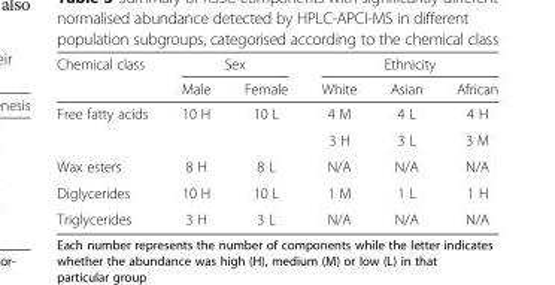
<table><thead><tr><td rowspan="2">Chemical class</td><td colspan="2">Sex</td><td colspan="3">Ethnicity</td></tr><tr><td>Male</td><td>Female</td><td>White</td><td>Asian</td><td>African</td></tr></thead><tbody><tr><td rowspan="2">Free fatty acids</td><td rowspan="2">10 H</td><td rowspan="2">10 L</td><td>4 M</td><td>4 L</td><td>4 H</td></tr><tr><td>3 H</td><td>3 L</td><td>3 M</td></tr><tr><td>Wax esters</td><td>8 H</td><td>8 L</td><td>N/A</td><td>N/A</td><td>N/A</td></tr><tr><td>Diglycerides</td><td>10 H</td><td>10 L</td><td>1 M</td><td>1 L</td><td>1 H</td></tr><tr><td>Triglycerides</td><td>3 H</td><td>3 L</td><td>N/A</td><td>N/A</td><td>N/A</td></tr></tbody></table>